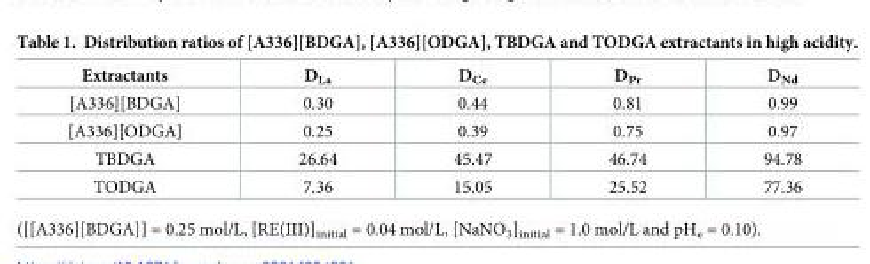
<table><thead><tr><td>Extractants</td><td>D<sub>La</sub></td><td>D<sub>Ce</sub></td><td>D<sub>Pr</sub></td><td>D<sub>Nd</sub></td></tr></thead><tbody><tr><td>[A336][BDGA]</td><td>0.30</td><td>0.44</td><td>0.81</td><td>0.99</td></tr><tr><td>[A336][ODGA]</td><td>0.25</td><td>0.39</td><td>0.75</td><td>0.97</td></tr><tr><td>TBDGA</td><td>26.64</td><td>45.47</td><td>46.74</td><td>94.78</td></tr><tr><td>TODGA</td><td>7.36</td><td>15.05</td><td>25.52</td><td>77.36</td></tr></tbody></table>